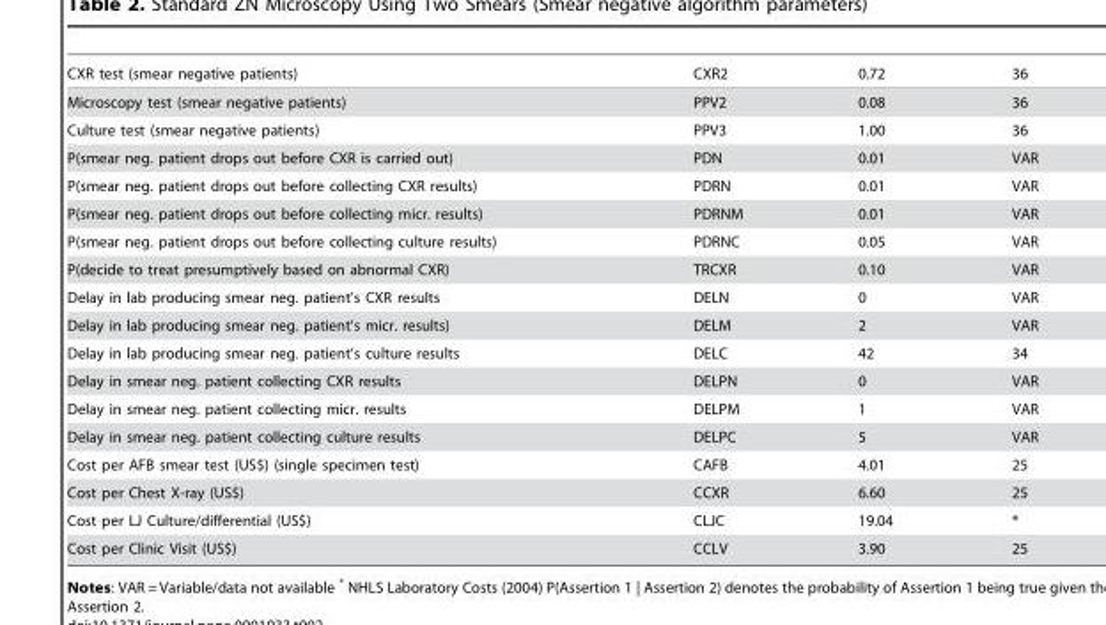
<table><tbody><tr><td>CXR test (smear negative patients)</td><td>CXR2</td><td>0.72</td><td>36</td></tr><tr><td>Microscopy test (smear negative patients)</td><td>PPV2</td><td>0.08</td><td>36</td></tr><tr><td>Culture test (smear negative patients)</td><td>PPV3</td><td>1.00</td><td>36</td></tr><tr><td>P(smear neg. patient drops out before CXR is carried out)</td><td>PDN</td><td>0.01</td><td>VAR</td></tr><tr><td>P(smear neg. patient drops out before collecting CXR results)</td><td>PDRN</td><td>0.01</td><td>VAR</td></tr><tr><td>P(smear neg. patient drops out before collecting micr. results)</td><td>PDRNM</td><td>0.01</td><td>VAR</td></tr><tr><td>P(smear neg. patient drops out before collecting culture results)</td><td>PDRNC</td><td>0.05</td><td>VAR</td></tr><tr><td>P(decide to treat presumptively based on abnormal CXR)</td><td>TRCXR</td><td>0.10</td><td>VAR</td></tr><tr><td>Delay in lab producing smear neg. patient’s CXR results</td><td>DELN</td><td>0</td><td>VAR</td></tr><tr><td>Delay in lab producing smear neg. patient’s micr. results)</td><td>DELM</td><td>2</td><td>VAR</td></tr><tr><td>Delay in lab producing smear neg. patient’s culture results</td><td>DELC</td><td>42</td><td>34</td></tr><tr><td>Delay in smear neg. patient collecting CXR results</td><td>DELPN</td><td>0</td><td>VAR</td></tr><tr><td>Delay in smear neg. patient collecting micr. results</td><td>DELPM</td><td>1</td><td>VAR</td></tr><tr><td>Delay in smear neg. patient collecting culture results</td><td>DELPC</td><td>5</td><td>VAR</td></tr><tr><td>Cost per AFB smear test (US$) (single specimen test)</td><td>CAFB</td><td>4.01</td><td>25</td></tr><tr><td>Cost per Chest X-ray (US$)</td><td>CCXR</td><td>6.60</td><td>25</td></tr><tr><td>Cost per LJ Culture/differential (US$)</td><td>CLJC</td><td>19.04</td><td>*</td></tr><tr><td>Cost per Clinic Visit (US$)</td><td>CCLV</td><td>3.90</td><td>25</td></tr></tbody></table>